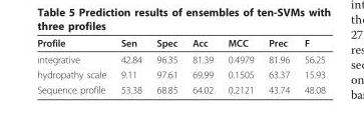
<table><thead><tr><td>Profile</td><td>Sen</td><td>Spec</td><td>Acc</td><td>MCC</td><td>Prec</td><td>F</td></tr></thead><tbody><tr><td>integrative</td><td>42.84</td><td>96.35</td><td>81.39</td><td>0.4979</td><td>81.96</td><td>56.25</td></tr><tr><td>hydropathy scale</td><td>9.11</td><td>97.61</td><td>69.99</td><td>0.1505</td><td>63.37</td><td>15.93</td></tr><tr><td>Sequence profile</td><td>53.38</td><td>68.85</td><td>64.02</td><td>0.2121</td><td>43.74</td><td>48.08</td></tr></tbody></table>